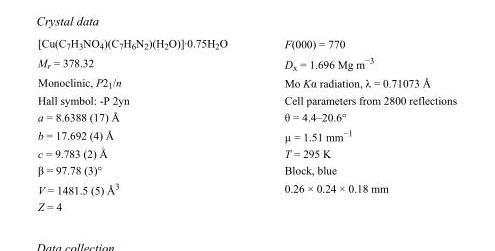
<table><tbody><tr><td>[Cu(C<sub>7</sub>H<sub>3</sub>NO<sub>4</sub>)(C<sub>7</sub>H<sub>6</sub>N<sub>2</sub>)(H<sub>2</sub>O)]·0.75H<sub>2</sub>O</td><td>F(000) = 770</td></tr><tr><td>M<sub>r</sub> = 378.32</td><td>D<sub>x</sub> = 1.696 Mg m<sup>−3</sup></td></tr><tr><td>Monoclinic, P2<sub>1</sub>/n</td><td>Mo Kα radiation, λ = 0.71073 Å</td></tr><tr><td>Hall symbol: -P 2yn</td><td>Cell parameters from 2800 reflections</td></tr><tr><td>a = 8.6388 (17) Å</td><td>θ = 4.4–20.6°</td></tr><tr><td>b = 17.692 (4) Å</td><td>µ = 1.51 mm<sup>−1</sup></td></tr><tr><td>c = 9.783 (2) Å</td><td>T = 295 K</td></tr><tr><td>β = 97.78 (3)°</td><td>Block, blue</td></tr><tr><td>V = 1481.5 (5) Å<sup>3</sup></td><td>0.26 × 0.24 × 0.18 mm</td></tr><tr><td>Z = 4</td><td></td></tr></tbody></table>